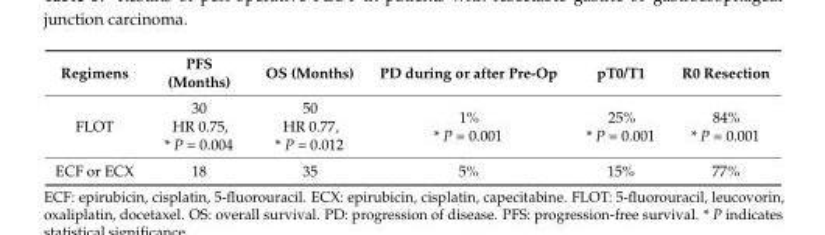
<table><thead><tr><td>Regimens</td><td>PFS (Months)</td><td>OS (Months)</td><td>PD during or after Pre-Op</td><td>pT0/T1</td><td>R0 Resection</td></tr></thead><tbody><tr><td>FLOT</td><td>30 HR 0.75, * P = 0.004</td><td>50 HR 0.77, * P = 0.012</td><td>1% * P = 0.001</td><td>25% * P = 0.001</td><td>84% * P = 0.001</td></tr><tr><td>ECF or ECX</td><td>18</td><td>35</td><td>5%</td><td>15%</td><td>77%</td></tr></tbody></table>